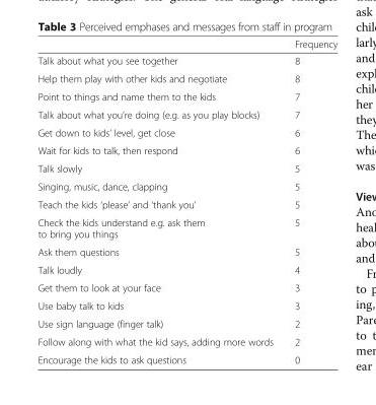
<table><thead><tr><td></td><td>Frequency</td></tr></thead><tbody><tr><td>Talk about what you see together</td><td>8</td></tr><tr><td>Help them play with other kids and negotiate</td><td>8</td></tr><tr><td>Point to things and name them to the kids</td><td>7</td></tr><tr><td>Talk about what you’re doing (e.g. as you play blocks)</td><td>7</td></tr><tr><td>Get down to kids’ level, get close</td><td>6</td></tr><tr><td>Wait for kids to talk, then respond</td><td>6</td></tr><tr><td>Talk slowly</td><td>5</td></tr><tr><td>Singing, music, dance, clapping</td><td>5</td></tr><tr><td>Teach the kids ‘please’ and ‘thank you’</td><td>5</td></tr><tr><td>Check the kids understand e.g. ask them to bring you things</td><td>5</td></tr><tr><td>Ask them questions</td><td>5</td></tr><tr><td>Talk loudly</td><td>4</td></tr><tr><td>Get them to look at your face</td><td>3</td></tr><tr><td>Use baby talk to kids</td><td>3</td></tr><tr><td>Use sign language (finger talk)</td><td>2</td></tr><tr><td>Follow along with what the kid says, adding more words</td><td>2</td></tr><tr><td>Encourage the kids to ask questions</td><td>0</td></tr></tbody></table>